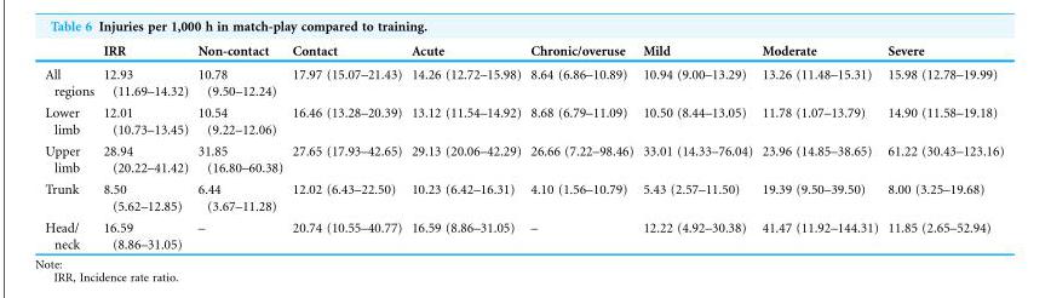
<table><thead><tr><td></td><td>IRR</td><td>Non-contact</td><td>Contact</td><td>Acute</td><td>Chronic/overuse</td><td>Mild</td><td>Moderate</td><td>Severe</td></tr></thead><tbody><tr><td>All regions</td><td>12.93 (11.69–14.32)</td><td>10.78 (9.50–12.24)</td><td>17.97 (15.07–21.43)</td><td>14.26 (12.72–15.98)</td><td>8.64 (6.86–10.89)</td><td>10.94 (9.00–13.29)</td><td>13.26 (11.48–15.31)</td><td>15.98 (12.78–19.99)</td></tr><tr><td>Lower limb</td><td>12.01 (10.73–13.45)</td><td>10.54 (9.22–12.06)</td><td>16.46 (13.28–20.39)</td><td>13.12 (11.54–14.92)</td><td>8.68 (6.79–11.09)</td><td>10.50 (8.44–13.05)</td><td>11.78 (1.07–13.79)</td><td>14.90 (11.58–19.18)</td></tr><tr><td>Upper limb</td><td>28.94 (20.22–41.42)</td><td>31.85 (16.80–60.38)</td><td>27.65 (17.93–42.65)</td><td>29.13 (20.06–42.29)</td><td>26.66 (7.22–98.46)</td><td>33.01 (14.33–76.04)</td><td>23.96 (14.85–38.65)</td><td>61.22 (30.43–123.16)</td></tr><tr><td>Trunk</td><td>8.50 (5.62–12.85)</td><td>6.44 (3.67–11.28)</td><td>12.02 (6.43–22.50)</td><td>10.23 (6.42–16.31)</td><td>4.10 (1.56–10.79)</td><td>5.43 (2.57–11.50)</td><td>19.39 (9.50–39.50)</td><td>8.00 (3.25–19.68)</td></tr><tr><td>Head/ neck</td><td>16.59 (8.86–31.05)</td><td>–</td><td>20.74 (10.55–40.77)</td><td>16.59 (8.86–31.05)</td><td>–</td><td>12.22 (4.92–30.38)</td><td>41.47 (11.92–144.31)</td><td>11.85 (2.65–52.94)</td></tr></tbody></table>